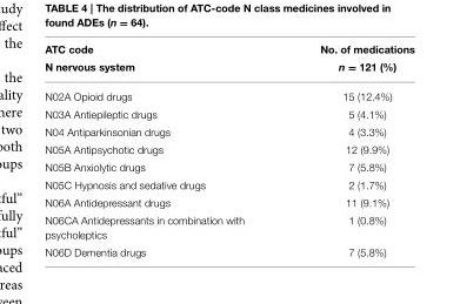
<table><thead><tr><td>ATC code N nervous system</td><td>No. of medications n = 121 (%)</td></tr></thead><tbody><tr><td>N02A Opioid drugs</td><td>15 (12.4%)</td></tr><tr><td>N03A Antiepileptic drugs</td><td>5 (4.1%)</td></tr><tr><td>N04 Antiparkinsonian drugs</td><td>4 (3.3%)</td></tr><tr><td>N05A Antipsychotic drugs</td><td>12 (9.9%)</td></tr><tr><td>N05B Anxiolytic drugs</td><td>7 (5.8%)</td></tr><tr><td>N05C Hypnosis and sedative drugs</td><td>2 (1.7%)</td></tr><tr><td>N06A Antidepressant drugs</td><td>11 (9.1%)</td></tr><tr><td>N06CA Antidepressants in combination with psycholeptics</td><td>1 (0.8%)</td></tr><tr><td>N06D Dementia drugs</td><td>7 (5.8%)</td></tr></tbody></table>